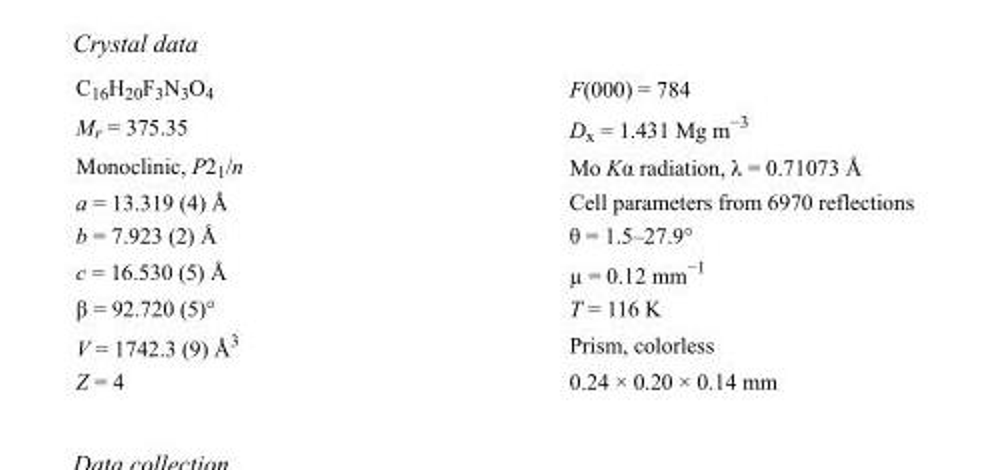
<table><tbody><tr><td>C<sub>16</sub>H<sub>20</sub>F<sub>3</sub>N<sub>3</sub>O<sub>4</sub></td><td>F(000) = 784</td></tr><tr><td>M<sub>r</sub> = 375.35</td><td>D<sub>x</sub> = 1.431 Mg m<sup>−3</sup></td></tr><tr><td>Monoclinic, P2<sub>1</sub>/n</td><td>Mo Kα radiation, λ = 0.71073 Å</td></tr><tr><td>a = 13.319 (4) Å</td><td>Cell parameters from 6970 reflections</td></tr><tr><td>b = 7.923 (2) Å</td><td>θ = 1.5–27.9°</td></tr><tr><td>c = 16.530 (5) Å</td><td>µ = 0.12 mm<sup>−1</sup></td></tr><tr><td>β = 92.720 (5)°</td><td>T = 116 K</td></tr><tr><td>V = 1742.3 (9) Å<sup>3</sup></td><td>Prism, colorless</td></tr><tr><td>Z = 4</td><td>0.24 × 0.20 × 0.14 mm</td></tr></tbody></table>